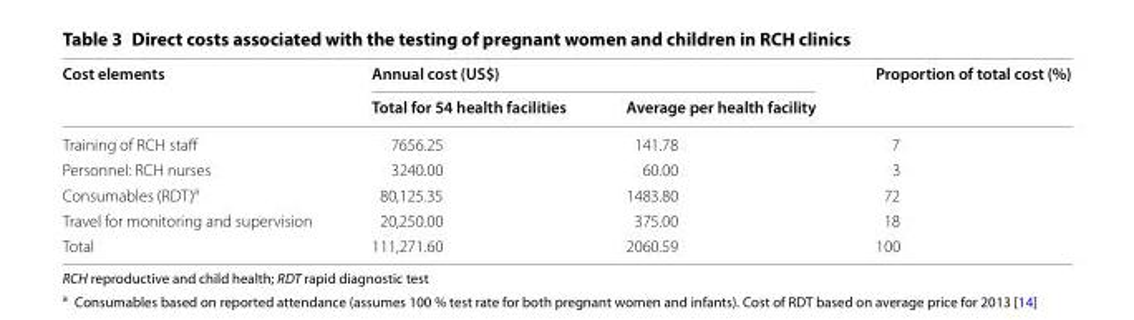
<table><thead><tr><td rowspan="2">Cost elements</td><td colspan="2">Annual cost (US$)</td><td rowspan="2">Proportion of total cost (%)</td></tr><tr><td>Total for 54 health facilities</td><td>Average per health facility</td></tr></thead><tbody><tr><td>Training of RCH staff</td><td>7656.25</td><td>141.78</td><td>7</td></tr><tr><td>Personnel: RCH nurses</td><td>3240.00</td><td>60.00</td><td>3</td></tr><tr><td>Consumables (RDT)<sup>a</sup></td><td>80,125.35</td><td>1483.80</td><td>72</td></tr><tr><td>Travel for monitoring and supervision</td><td>20,250.00</td><td>375.00</td><td>18</td></tr><tr><td>Total</td><td>111,271.60</td><td>2060.59</td><td>100</td></tr></tbody></table>